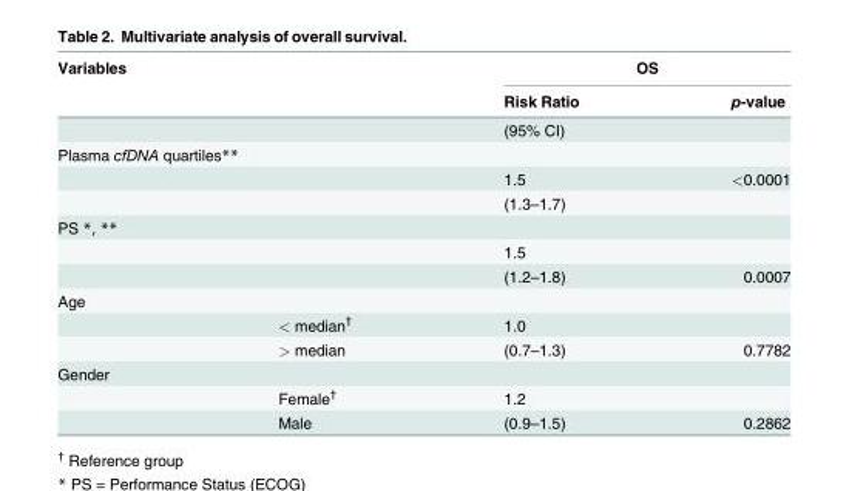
<table><thead><tr><td rowspan="2">Variables</td><td rowspan="2"></td><td colspan="2">OS</td></tr><tr><td>Risk Ratio</td><td>p-value</td></tr></thead><tbody><tr><td></td><td></td><td>(95% CI)</td><td></td></tr><tr><td colspan="4">Plasma cfDNA quartiles**</td></tr><tr><td></td><td></td><td>1.5</td><td>&lt;0.0001</td></tr><tr><td></td><td></td><td>(1.3–1.7)</td><td></td></tr><tr><td colspan="4">PS *, **</td></tr><tr><td></td><td></td><td>1.5</td><td></td></tr><tr><td></td><td></td><td>(1.2–1.8)</td><td>0.0007</td></tr><tr><td colspan="4">Age</td></tr><tr><td></td><td>&lt; median<sup>†</sup></td><td>1.0</td><td></td></tr><tr><td></td><td>&gt; median</td><td>(0.7–1.3)</td><td>0.7782</td></tr><tr><td colspan="4">Gender</td></tr><tr><td></td><td>Female<sup>†</sup></td><td>1.2</td><td></td></tr><tr><td></td><td>Male</td><td>(0.9–1.5)</td><td>0.2862</td></tr></tbody></table>